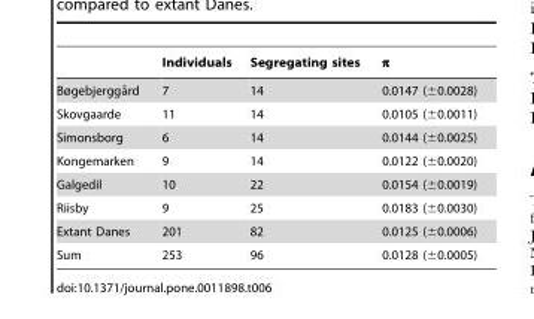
<table><thead><tr><td></td><td>Individuals</td><td>Segregating sites</td><td>π</td></tr></thead><tbody><tr><td>Bøgebjergga˚rd</td><td>7</td><td>14</td><td>0.0147 (±0.0028)</td></tr><tr><td>Skovgaarde</td><td>11</td><td>14</td><td>0.0105 (±0.0011)</td></tr><tr><td>Simonsborg</td><td>6</td><td>14</td><td>0.0144 (±0.0025)</td></tr><tr><td>Kongemarken</td><td>9</td><td>14</td><td>0.0122 (±0.0020)</td></tr><tr><td>Galgedil</td><td>10</td><td>22</td><td>0.0154 (±0.0019)</td></tr><tr><td>Riisby</td><td>9</td><td>25</td><td>0.0183 (±0.0030)</td></tr><tr><td>Extant Danes</td><td>201</td><td>82</td><td>0.0125 (±0.0006)</td></tr><tr><td>Sum</td><td>253</td><td>96</td><td>0.0128 (±0.0005)</td></tr></tbody></table>